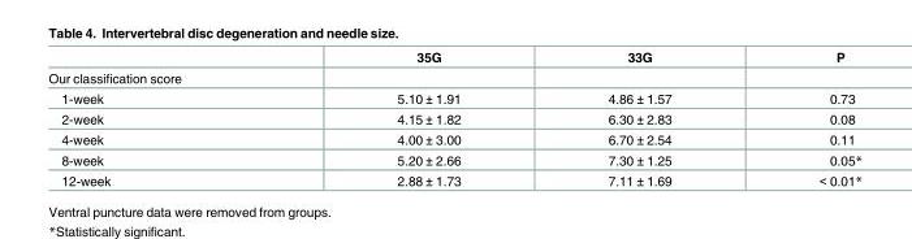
<table><thead><tr><td></td><td>35G</td><td>33G</td><td>P</td></tr></thead><tbody><tr><td colspan="4">Our classification score</td></tr><tr><td>1-week</td><td>5.10 ± 1.91</td><td>4.86 ± 1.57</td><td>0.73</td></tr><tr><td>2-week</td><td>4.15 ± 1.82</td><td>6.30 ± 2.83</td><td>0.08</td></tr><tr><td>4-week</td><td>4.00 ± 3.00</td><td>6.70 ± 2.54</td><td>0.11</td></tr><tr><td>8-week</td><td>5.20 ± 2.66</td><td>7.30 ± 1.25</td><td>0.05*</td></tr><tr><td>12-week</td><td>2.88 ± 1.73</td><td>7.11 ± 1.69</td><td>&lt; 0.01*</td></tr></tbody></table>